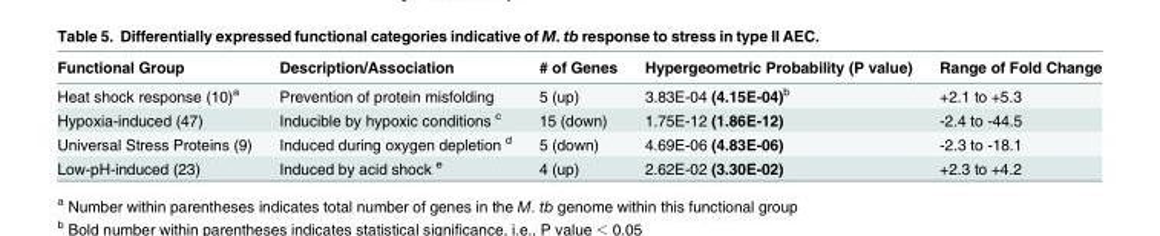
<table><thead><tr><td>Functional Group</td><td>Description/Association</td><td># of Genes</td><td>Hypergeometric Probability (P value)</td><td>Range of Fold Change</td></tr></thead><tbody><tr><td>Heat shock response (10)<sup>a</sup></td><td>Prevention of protein misfolding</td><td>5 (up)</td><td>3.83E-04 (4.15E-04)<sup>b</sup></td><td>+2.1 to +5.3</td></tr><tr><td>Hypoxia-induced (47)</td><td>Inducible by hypoxic conditions <sup>c</sup></td><td>15 (down)</td><td>1.75E-12 (1.86E-12)</td><td>-2.4 to -44.5</td></tr><tr><td>Universal Stress Proteins (9)</td><td>Induced during oxygen depletion <sup>d</sup></td><td>5 (down)</td><td>4.69E-06 (4.83E-06)</td><td>-2.3 to -18.1</td></tr><tr><td>Low-pH-induced (23)</td><td>Induced by acid shock <sup>e</sup></td><td>4 (up)</td><td>2.62E-02 (3.30E-02)</td><td>+2.3 to +4.2</td></tr></tbody></table>